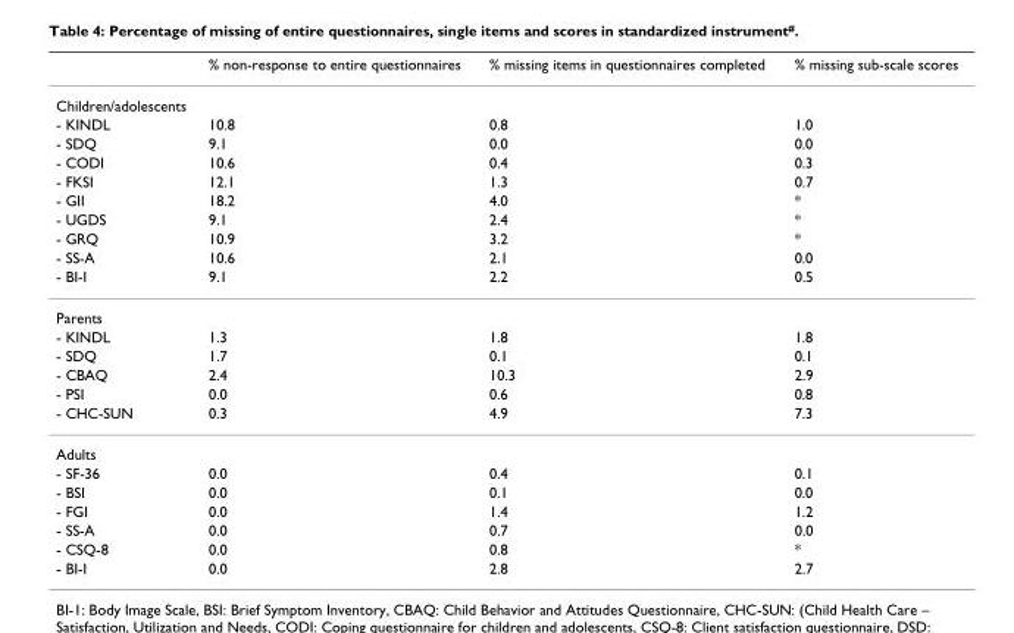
<table><thead><tr><td></td><td>% non-response to entire questionnaires</td><td>% missing items in questionnaires completed</td><td>% missing sub-scale scores</td></tr></thead><tbody><tr><td colspan="4">Children/adolescents</td></tr><tr><td>- KINDL</td><td>10.8</td><td>0.8</td><td>1.0</td></tr><tr><td>- SDQ</td><td>9.1</td><td>0.0</td><td>0.0</td></tr><tr><td>- CODI</td><td>10.6</td><td>0.4</td><td>0.3</td></tr><tr><td>- FKSI</td><td>12.1</td><td>1.3</td><td>0.7</td></tr><tr><td>- GII</td><td>18.2</td><td>4.0</td><td>*</td></tr><tr><td>- UGDS</td><td>9.1</td><td>2.4</td><td>*</td></tr><tr><td>- GRQ</td><td>10.9</td><td>3.2</td><td>*</td></tr><tr><td>- SS-A</td><td>10.6</td><td>2.1</td><td>0.0</td></tr><tr><td>- BI-I</td><td>9.1</td><td>2.2</td><td>0.5</td></tr><tr><td colspan="4">Parents</td></tr><tr><td>- KINDL</td><td>1.3</td><td>1.8</td><td>1.8</td></tr><tr><td>- SDQ</td><td>1.7</td><td>0.1</td><td>0.1</td></tr><tr><td>- CBAQ</td><td>2.4</td><td>10.3</td><td>2.9</td></tr><tr><td>- PSI</td><td>0.0</td><td>0.6</td><td>0.8</td></tr><tr><td>- CHC-SUN</td><td>0.3</td><td>4.9</td><td>7.3</td></tr><tr><td colspan="4">Adults</td></tr><tr><td>- SF-36</td><td>0.0</td><td>0.4</td><td>0.1</td></tr><tr><td>- BSI</td><td>0.0</td><td>0.1</td><td>0.0</td></tr><tr><td>- FGI</td><td>0.0</td><td>1.4</td><td>1.2</td></tr><tr><td>- SS-A</td><td>0.0</td><td>0.7</td><td>0.0</td></tr><tr><td>- CSQ-8</td><td>0.0</td><td>0.8</td><td>*</td></tr><tr><td>- BI-I</td><td>0.0</td><td>2.8</td><td>2.7</td></tr></tbody></table>